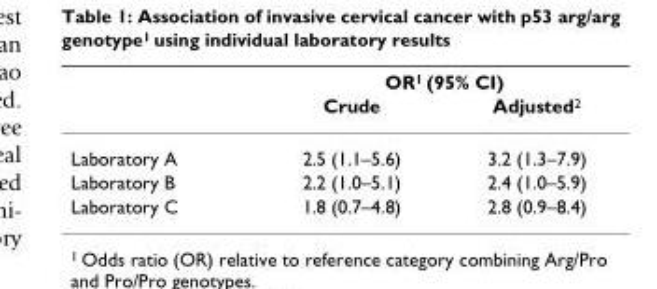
<table><thead><tr><td rowspan="2"></td><td colspan="2">OR<sup>1</sup> (95% CI)</td></tr><tr><td>Crude</td><td>Adjusted<sup>2</sup></td></tr></thead><tbody><tr><td>Laboratory A</td><td>2.5 (1.1–5.6)</td><td>3.2 (1.3–7.9)</td></tr><tr><td>Laboratory B</td><td>2.2 (1.0–5.1)</td><td>2.4 (1.0–5.9)</td></tr><tr><td>Laboratory C</td><td>1.8 (0.7–4.8)</td><td>2.8 (0.9–8.4)</td></tr></tbody></table>